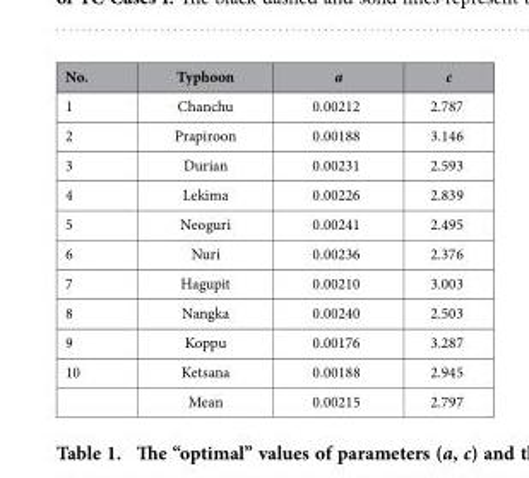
<table><thead><tr><td>No.</td><td>Typhoon</td><td>a</td><td>c</td></tr></thead><tbody><tr><td>1</td><td>Chanchu</td><td>0.00212</td><td>2.787</td></tr><tr><td>2</td><td>Prapiroon</td><td>0.00188</td><td>3.146</td></tr><tr><td>3</td><td>Durian</td><td>0.00231</td><td>2.593</td></tr><tr><td>4</td><td>Lekima</td><td>0.00226</td><td>2.839</td></tr><tr><td>5</td><td>Neoguri</td><td>0.00241</td><td>2.495</td></tr><tr><td>6</td><td>Nuri</td><td>0.00236</td><td>2.376</td></tr><tr><td>7</td><td>Hagupit</td><td>0.00210</td><td>3.003</td></tr><tr><td>8</td><td>Nangka</td><td>0.00240</td><td>2.503</td></tr><tr><td>9</td><td>Koppu</td><td>0.00176</td><td>3.287</td></tr><tr><td rowspan="2">10</td><td>Ketsana</td><td>0.00188</td><td>2.945</td></tr><tr><td>Mean</td><td>0.00215</td><td>2.797</td></tr></tbody></table>